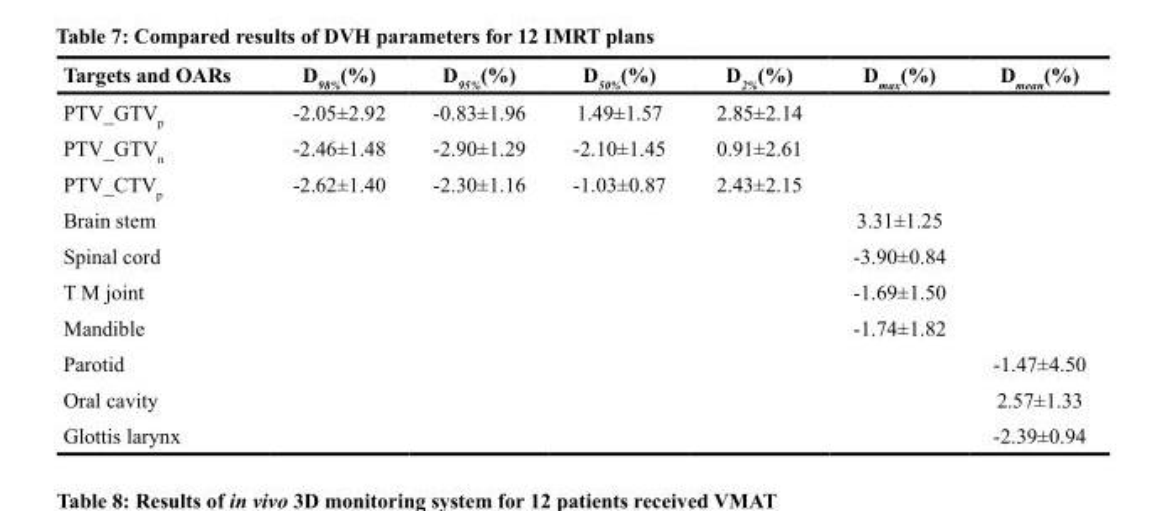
<table><thead><tr><td>Targets and OARs</td><td>D<sub>98%</sub>(%)</td><td>D<sub>95%</sub>(%)</td><td>D<sub>50%</sub>(%)</td><td>D<sub>2%</sub>(%)</td><td>D<sub>max</sub>(%)</td><td>D<sub>mean</sub>(%)</td></tr></thead><tbody><tr><td>PTV_GTV<sub>p</sub></td><td>-2.05±2.92</td><td>-0.83±1.96</td><td>1.49±1.57</td><td>2.85±2.14</td><td></td><td></td></tr><tr><td>PTV_GTV<sub>n</sub></td><td>-2.46±1.48</td><td>-2.90±1.29</td><td>-2.10±1.45</td><td>0.91±2.61</td><td></td><td></td></tr><tr><td>PTV_CTV<sub>p</sub></td><td>-2.62±1.40</td><td>-2.30±1.16</td><td>-1.03±0.87</td><td>2.43±2.15</td><td></td><td></td></tr><tr><td>Brain stem</td><td></td><td></td><td></td><td></td><td>3.31±1.25</td><td></td></tr><tr><td>Spinal cord</td><td></td><td></td><td></td><td></td><td>-3.90±0.84</td><td></td></tr><tr><td>T M joint</td><td></td><td></td><td></td><td></td><td>-1.69±1.50</td><td></td></tr><tr><td>Mandible</td><td></td><td></td><td></td><td></td><td>-1.74±1.82</td><td></td></tr><tr><td>Parotid</td><td></td><td></td><td></td><td></td><td></td><td>-1.47±4.50</td></tr><tr><td>Oral cavity</td><td></td><td></td><td></td><td></td><td></td><td>2.57±1.33</td></tr><tr><td>Glottis larynx</td><td></td><td></td><td></td><td></td><td></td><td>-2.39±0.94</td></tr></tbody></table>